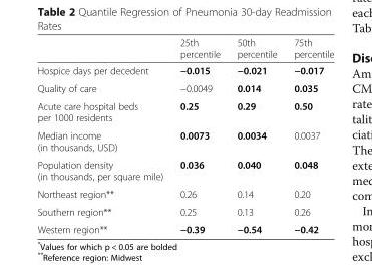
<table><thead><tr><td></td><td>25th percentile</td><td>50th percentile</td><td>75th percentile</td></tr></thead><tbody><tr><td>Hospice days per decedent</td><td>−0.015</td><td>−0.021</td><td>−0.017</td></tr><tr><td>Quality of care</td><td>−0.0049</td><td>0.014</td><td>0.035</td></tr><tr><td>Acute care hospital beds per 1000 residents</td><td>0.25</td><td>0.29</td><td>0.50</td></tr><tr><td>Median income (in thousands, USD)</td><td>0.0073</td><td>0.0034</td><td>0.0037</td></tr><tr><td>Population density (in thousands, per square mile)</td><td>0.036</td><td>0.040</td><td>0.048</td></tr><tr><td>Northeast region**</td><td>0.26</td><td>0.14</td><td>0.20</td></tr><tr><td>Southern region**</td><td>0.25</td><td>0.13</td><td>0.26</td></tr><tr><td>Western region**</td><td>−0.39</td><td>−0.54</td><td>−0.42</td></tr></tbody></table>